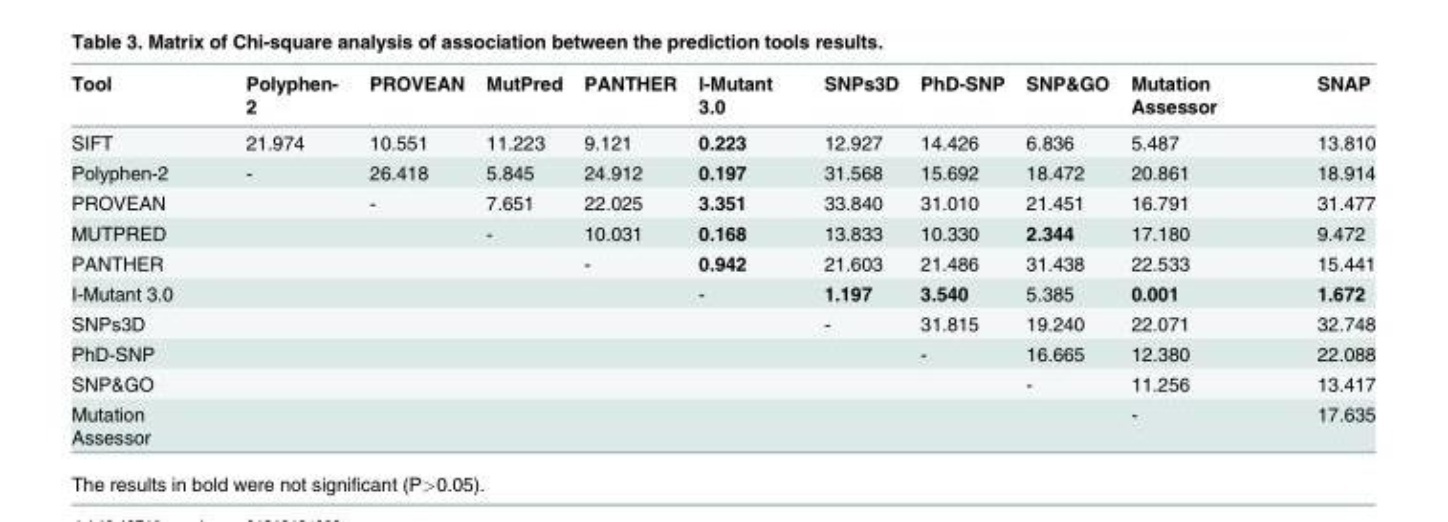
<table><thead><tr><td>Tool</td><td>Polyphen- 2</td><td>PROVEAN</td><td>MutPred</td><td>PANTHER</td><td>I-Mutant 3.0</td><td>SNPs3D</td><td>PhD-SNP</td><td>SNP&amp;GO</td><td>Mutation Assessor</td><td>SNAP</td></tr></thead><tbody><tr><td>SIFT</td><td>21.974</td><td>10.551</td><td>11.223</td><td>9.121</td><td>0.223</td><td>12.927</td><td>14.426</td><td>6.836</td><td>5.487</td><td>13.810</td></tr><tr><td>Polyphen-2</td><td>-</td><td>26.418</td><td>5.845</td><td>24.912</td><td>0.197</td><td>31.568</td><td>15.692</td><td>18.472</td><td>20.861</td><td>18.914</td></tr><tr><td>PROVEAN</td><td></td><td>-</td><td>7.651</td><td>22.025</td><td>3.351</td><td>33.840</td><td>31.010</td><td>21.451</td><td>16.791</td><td>31.477</td></tr><tr><td>MUTPRED</td><td></td><td></td><td>-</td><td>10.031</td><td>0.168</td><td>13.833</td><td>10.330</td><td>2.344</td><td>17.180</td><td>9.472</td></tr><tr><td>PANTHER</td><td></td><td></td><td></td><td>-</td><td>0.942</td><td>21.603</td><td>21.486</td><td>31.438</td><td>22.533</td><td>15.441</td></tr><tr><td>I-Mutant 3.0</td><td></td><td></td><td></td><td></td><td>-</td><td>1.197</td><td>3.540</td><td>5.385</td><td>0.001</td><td>1.672</td></tr><tr><td>SNPs3D</td><td></td><td></td><td></td><td></td><td></td><td>-</td><td>31.815</td><td>19.240</td><td>22.071</td><td>32.748</td></tr><tr><td>PhD-SNP</td><td></td><td></td><td></td><td></td><td></td><td></td><td>-</td><td>16.665</td><td>12.380</td><td>22.088</td></tr><tr><td>SNP&amp;GO</td><td></td><td></td><td></td><td></td><td></td><td></td><td></td><td>-</td><td>11.256</td><td>13.417</td></tr><tr><td>Mutation Assessor</td><td></td><td></td><td></td><td></td><td></td><td></td><td></td><td></td><td>-</td><td>17.635</td></tr></tbody></table>